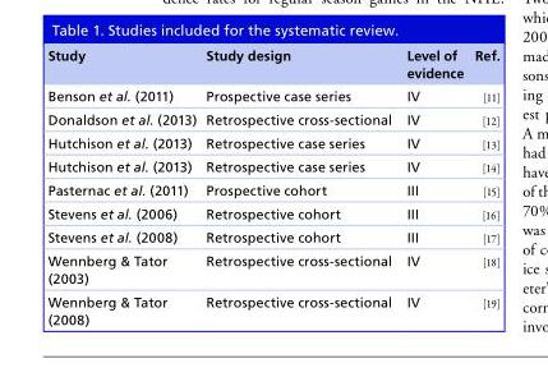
<table><thead><tr><td>Study</td><td>Study design</td><td>Level of evidence</td><td>Ref.</td></tr></thead><tbody><tr><td>Benson et al. (2011)</td><td>Prospective case series</td><td>IV</td><td>[11]</td></tr><tr><td>Donaldson et al. (2013)</td><td>Retrospective cross-sectional</td><td>IV</td><td>[12]</td></tr><tr><td>Hutchison et al. (2013)</td><td>Retrospective case series</td><td>IV</td><td>[13]</td></tr><tr><td>Hutchison et al. (2013)</td><td>Retrospective case series</td><td>IV</td><td>[14]</td></tr><tr><td>Pasternac et al. (2011)</td><td>Prospective cohort</td><td>III</td><td>[15]</td></tr><tr><td>Stevens et al. (2006)</td><td>Retrospective cohort</td><td>III</td><td>[16]</td></tr><tr><td>Stevens et al. (2008)</td><td>Retrospective cohort</td><td>III</td><td>[17]</td></tr><tr><td>Wennberg &amp; Tator (2003)</td><td>Retrospective cross-sectional</td><td>IV</td><td>[18]</td></tr><tr><td>Wennberg &amp; Tator (2008)</td><td>Retrospective cross-sectional</td><td>IV</td><td>[19]</td></tr></tbody></table>